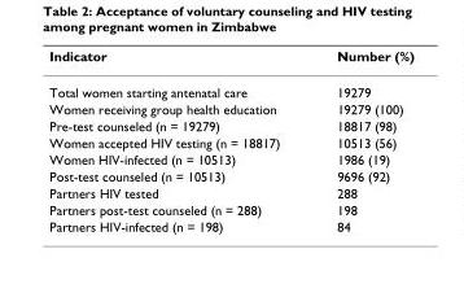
<table><thead><tr><td>Indicator</td><td>Number (%)</td></tr></thead><tbody><tr><td>Total women starting antenatal care</td><td>19279</td></tr><tr><td>Women receiving group health education</td><td>19279 (100)</td></tr><tr><td>Pre-test counseled (n = 19279)</td><td>18817 (98)</td></tr><tr><td>Women accepted HIV testing (n = 18817)</td><td>10513 (56)</td></tr><tr><td>Women HIV-infected (n = 10513)</td><td>1986 (19)</td></tr><tr><td>Post-test counseled (n = 10513)</td><td>9696 (92)</td></tr><tr><td>Partners HIV tested</td><td>288</td></tr><tr><td>Partners post-test counseled (n = 288)</td><td>198</td></tr><tr><td>Partners HIV-infected (n = 198)</td><td>84</td></tr></tbody></table>